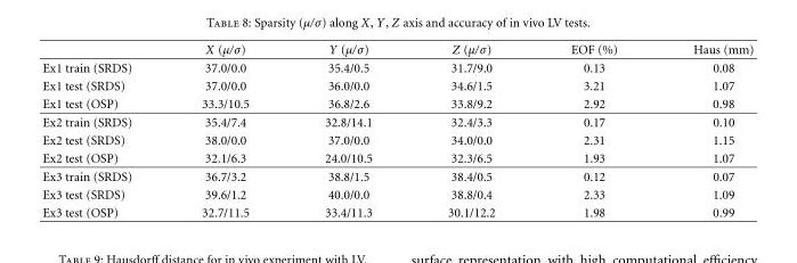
<table><thead><tr><td></td><td>X (μ/σ)</td><td>Y (μ/σ)</td><td>Z (μ/σ)</td><td>EOF (%)</td><td>Haus (mm)</td></tr></thead><tbody><tr><td>Ex1 train (SRDS)</td><td>37.0/0.0</td><td>35.4/0.5</td><td>31.7/9.0</td><td>0.13</td><td>0.08</td></tr><tr><td>Ex1 test (SRDS)</td><td>37.0/0.0</td><td>36.0/0.0</td><td>34.6/1.5</td><td>3.21</td><td>1.07</td></tr><tr><td>Ex1 test (OSP)</td><td>33.3/10.5</td><td>36.8/2.6</td><td>33.8/9.2</td><td>2.92</td><td>0.98</td></tr><tr><td>Ex2 train (SRDS)</td><td>35.4/7.4</td><td>32.8/14.1</td><td>32.4/3.3</td><td>0.17</td><td>0.10</td></tr><tr><td>Ex2 test (SRDS)</td><td>38.0/0.0</td><td>37.0/0.0</td><td>34.0/0.0</td><td>2.31</td><td>1.15</td></tr><tr><td>Ex2 test (OSP)</td><td>32.1/6.3</td><td>24.0/10.5</td><td>32.3/6.5</td><td>1.93</td><td>1.07</td></tr><tr><td>Ex3 train (SRDS)</td><td>36.7/3.2</td><td>38.8/1.5</td><td>38.4/0.5</td><td>0.12</td><td>0.07</td></tr><tr><td>Ex3 test (SRDS)</td><td>39.6/1.2</td><td>40.0/0.0</td><td>38.8/0.4</td><td>2.33</td><td>1.09</td></tr><tr><td>Ex3 test (OSP)</td><td>32.7/11.5</td><td>33.4/11.3</td><td>30.1/12.2</td><td>1.98</td><td>0.99</td></tr></tbody></table>